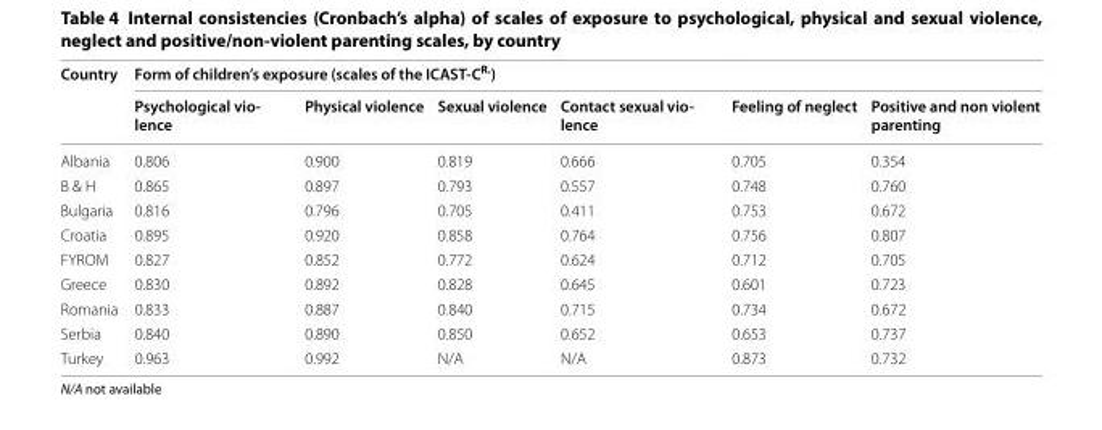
<table><thead><tr><td rowspan="2">Country</td><td colspan="6">Form of children’s exposure (scales of the ICAST-C<sup>R.</sup>)</td></tr><tr><td>Psychological vio- lence</td><td>Physical violence</td><td>Sexual violence</td><td>Contact sexual vio- lence</td><td>Feeling of neglect</td><td>Positive and non violent parenting</td></tr></thead><tbody><tr><td>Albania</td><td>0.806</td><td>0.900</td><td>0.819</td><td>0.666</td><td>0.705</td><td>0.354</td></tr><tr><td>B &amp; H</td><td>0.865</td><td>0.897</td><td>0.793</td><td>0.557</td><td>0.748</td><td>0.760</td></tr><tr><td>Bulgaria</td><td>0.816</td><td>0.796</td><td>0.705</td><td>0.411</td><td>0.753</td><td>0.672</td></tr><tr><td>Croatia</td><td>0.895</td><td>0.920</td><td>0.858</td><td>0.764</td><td>0.756</td><td>0.807</td></tr><tr><td>FYROM</td><td>0.827</td><td>0.852</td><td>0.772</td><td>0.624</td><td>0.712</td><td>0.705</td></tr><tr><td>Greece</td><td>0.830</td><td>0.892</td><td>0.828</td><td>0.645</td><td>0.601</td><td>0.723</td></tr><tr><td>Romania</td><td>0.833</td><td>0.887</td><td>0.840</td><td>0.715</td><td>0.734</td><td>0.672</td></tr><tr><td>Serbia</td><td>0.840</td><td>0.890</td><td>0.850</td><td>0.652</td><td>0.653</td><td>0.737</td></tr><tr><td>Turkey</td><td>0.963</td><td>0.992</td><td>N/A</td><td>N/A</td><td>0.873</td><td>0.732</td></tr></tbody></table>